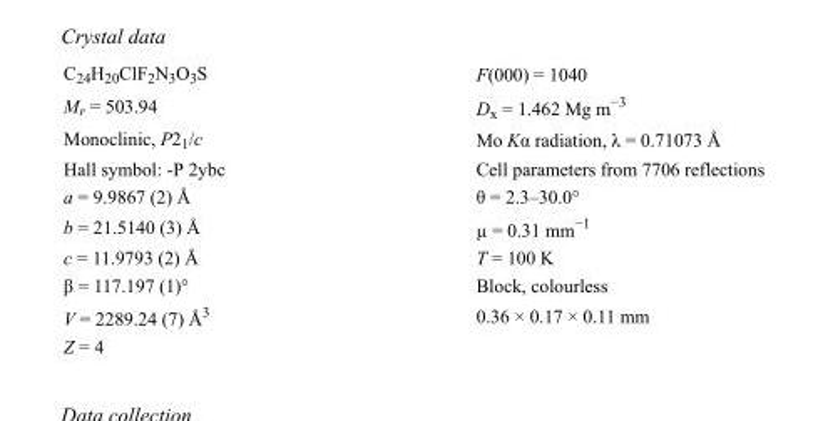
<table><tbody><tr><td>C<sub>24</sub>H<sub>20</sub>ClF<sub>2</sub>N<sub>3</sub>O<sub>3</sub>S</td><td>F(000) = 1040</td></tr><tr><td>M<sub>r</sub> = 503.94</td><td>D<sub>x</sub> = 1.462 Mg m<sup>−3</sup></td></tr><tr><td>Monoclinic, P2<sub>1</sub>/c</td><td>Mo Kα radiation, λ = 0.71073 Å</td></tr><tr><td>Hall symbol: -P 2ybc</td><td>Cell parameters from 7706 reflections</td></tr><tr><td>a = 9.9867 (2) Å</td><td>θ = 2.3–30.0°</td></tr><tr><td>b = 21.5140 (3) Å</td><td>µ = 0.31 mm<sup>−1</sup></td></tr><tr><td>c = 11.9793 (2) Å</td><td>T = 100 K</td></tr><tr><td>β = 117.197 (1)°</td><td>Block, colourless</td></tr><tr><td>V = 2289.24 (7) Å<sup>3</sup></td><td>0.36 × 0.17 × 0.11 mm</td></tr><tr><td>Z = 4</td><td></td></tr></tbody></table>